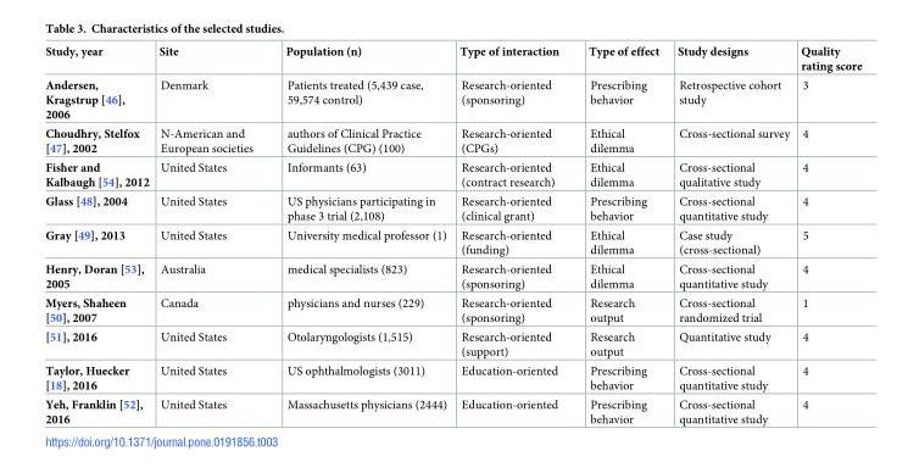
<table><thead><tr><td>Study, year</td><td>Site</td><td>Population (n)</td><td>Type of interaction</td><td>Type of effect</td><td>Study designs</td><td>Quality rating score</td></tr></thead><tbody><tr><td>Andersen, Kragstrup [46], 2006</td><td>Denmark</td><td>Patients treated (5,439 case, 59,574 control)</td><td>Research-oriented (sponsoring)</td><td>Prescribing behavior</td><td>Retrospective cohort study</td><td>3</td></tr><tr><td>Choudhry, Stelfox [47], 2002</td><td>N-American and European societies</td><td>authors of Clinical Practice Guidelines (CPG) (100)</td><td>Research-oriented (CPGs)</td><td>Ethical dilemma</td><td>Cross-sectional survey</td><td>4</td></tr><tr><td>Fisher and Kalbaugh [54], 2012</td><td>United States</td><td>Informants (63)</td><td>Research-oriented (contract research)</td><td>Ethical dilemma</td><td>Cross-sectional qualitative study</td><td>4</td></tr><tr><td>Glass [48], 2004</td><td>United States</td><td>US physicians participating in phase 3 trial (2,108)</td><td>Research-oriented (clinical grant)</td><td>Prescribing behavior</td><td>Cross-sectional quantitative study</td><td>4</td></tr><tr><td>Gray [49], 2013</td><td>United States</td><td>University medical professor (1)</td><td>Research-oriented (funding)</td><td>Ethical dilemma</td><td>Case study (cross-sectional)</td><td>5</td></tr><tr><td>Henry, Doran [53], 2005</td><td>Australia</td><td>medical specialists (823)</td><td>Research-oriented (sponsoring)</td><td>Ethical dilemma</td><td>Cross-sectional quantitative study</td><td>4</td></tr><tr><td>Myers, Shaheen [50], 2007</td><td>Canada</td><td>physicians and nurses (229)</td><td>Research-oriented (sponsoring)</td><td>Research output</td><td>Cross-sectional randomized trial</td><td>1</td></tr><tr><td>[51], 2016</td><td>United States</td><td>Otolaryngologists (1,515)</td><td>Research-oriented (support)</td><td>Research output</td><td>Quantitative study</td><td>4</td></tr><tr><td>Taylor, Huecker [18], 2016</td><td>United States</td><td>US ophthalmologists (3011)</td><td>Education-oriented</td><td>Prescribing behavior</td><td>Cross-sectional quantitative study</td><td>4</td></tr><tr><td>Yeh, Franklin [52], 2016</td><td>United States</td><td>Massachusetts physicians (2444)</td><td>Education-oriented</td><td>Prescribing behavior</td><td>Cross-sectional quantitative study</td><td>4</td></tr></tbody></table>